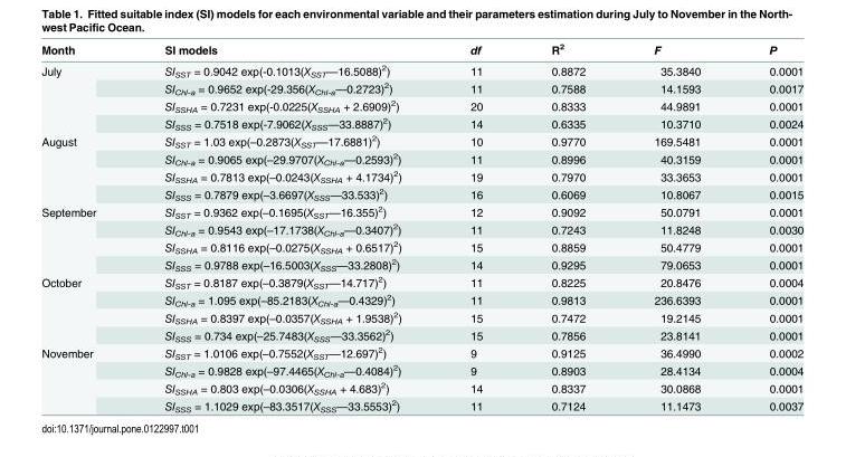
<table><thead><tr><td>Month</td><td>SI models</td><td>df</td><td>R<sup>2</sup></td><td>F</td><td>P</td></tr></thead><tbody><tr><td rowspan="4">July</td><td>SI<sub>SST</sub> = 0.9042 exp(-0.1013(X<sub>SST</sub>—16.5088)<sup>2</sup>)</td><td>11</td><td>0.8872</td><td>35.3840</td><td>0.0001</td></tr><tr><td>SI<sub>Chl-a</sub> = 0.9652 exp(-29.356(X<sub>Chl-a</sub>—0.2723)<sup>2</sup>)</td><td>11</td><td>0.7588</td><td>14.1593</td><td>0.0017</td></tr><tr><td>SI<sub>SSHA</sub> = 0.7231 exp(-0.0225(X<sub>SSHA</sub> + 2.6909)<sup>2</sup>)</td><td>20</td><td>0.8333</td><td>44.9891</td><td>0.0001</td></tr><tr><td>SI<sub>SSS</sub> = 0.7518 exp(-7.9062(X<sub>SSS</sub>—33.8887)<sup>2</sup>)</td><td>14</td><td>0.6335</td><td>10.3710</td><td>0.0024</td></tr><tr><td rowspan="4">August</td><td>SI<sub>SST</sub> = 1.03 exp(–0.2873(X<sub>SST</sub>—17.6881)<sup>2</sup>)</td><td>10</td><td>0.9770</td><td>169.5481</td><td>0.0001</td></tr><tr><td>SI<sub>Chl-a</sub> = 0.9065 exp(–29.9707(X<sub>Chl-a</sub>—0.2593)<sup>2</sup>)</td><td>11</td><td>0.8996</td><td>40.3159</td><td>0.0001</td></tr><tr><td>SI<sub>SSHA</sub> = 0.7813 exp(–0.0243(X<sub>SSHA</sub> + 4.1734)<sup>2</sup>)</td><td>19</td><td>0.7970</td><td>33.3653</td><td>0.0001</td></tr><tr><td>SI<sub>SSS</sub> = 0.7879 exp(–3.6697(X<sub>SSS</sub>—33.533)<sup>2</sup>)</td><td>16</td><td>0.6069</td><td>10.8067</td><td>0.0015</td></tr><tr><td rowspan="4">September</td><td>SI<sub>SST</sub> = 0.9362 exp(–0.1695(X<sub>SST</sub>—16.355)<sup>2</sup>)</td><td>12</td><td>0.9092</td><td>50.0791</td><td>0.0001</td></tr><tr><td>SI<sub>Chl-a</sub> = 0.9543 exp(–17.1738(X<sub>Chl-a</sub>—0.3407)<sup>2</sup>)</td><td>11</td><td>0.7243</td><td>11.8248</td><td>0.0030</td></tr><tr><td>SI<sub>SSHA</sub> = 0.8116 exp(–0.0275(X<sub>SSHA</sub> + 0.6517)<sup>2</sup>)</td><td>15</td><td>0.8859</td><td>50.4779</td><td>0.0001</td></tr><tr><td>SI<sub>SSS</sub> = 0.9788 exp(–16.5003(X<sub>SSS</sub>—33.2808)<sup>2</sup>)</td><td>14</td><td>0.9295</td><td>79.0653</td><td>0.0001</td></tr><tr><td rowspan="4">October</td><td>SI<sub>SST</sub> = 0.8187 exp(–0.3879(X<sub>SST</sub>—14.717)<sup>2</sup>)</td><td>11</td><td>0.8225</td><td>20.8476</td><td>0.0004</td></tr><tr><td>SI<sub>Chl-a</sub> = 1.095 exp(–85.2183(X<sub>Chl-a</sub>—0.4329)<sup>2</sup>)</td><td>11</td><td>0.9813</td><td>236.6393</td><td>0.0001</td></tr><tr><td>SI<sub>SSHA</sub> = 0.8397 exp(–0.0357(X<sub>SSHA</sub> + 1.9538)<sup>2</sup>)</td><td>15</td><td>0.7472</td><td>19.2145</td><td>0.0001</td></tr><tr><td>SI<sub>SSS</sub> = 0.734 exp(–25.7483(X<sub>SSS</sub>—33.3562)<sup>2</sup>)</td><td>15</td><td>0.7856</td><td>23.8141</td><td>0.0001</td></tr><tr><td rowspan="4">November</td><td>SI<sub>SST</sub> = 1.0106 exp(–0.7552(X<sub>SST</sub>—12.697)<sup>2</sup>)</td><td>9</td><td>0.9125</td><td>36.4990</td><td>0.0002</td></tr><tr><td>SI<sub>Chl-a</sub> = 0.9828 exp(–97.4465(X<sub>Chl-a</sub>—0.4084)<sup>2</sup>)</td><td>9</td><td>0.8903</td><td>28.4134</td><td>0.0004</td></tr><tr><td>SI<sub>SSHA</sub> = 0.803 exp(–0.0306(X<sub>SSHA</sub> + 4.683)<sup>2</sup>)</td><td>14</td><td>0.8337</td><td>30.0868</td><td>0.0001</td></tr><tr><td>SI<sub>SSS</sub> = 1.1029 exp(–83.3517(X<sub>SSS</sub>—33.5553)<sup>2</sup>)</td><td>11</td><td>0.7124</td><td>11.1473</td><td>0.0037</td></tr></tbody></table>